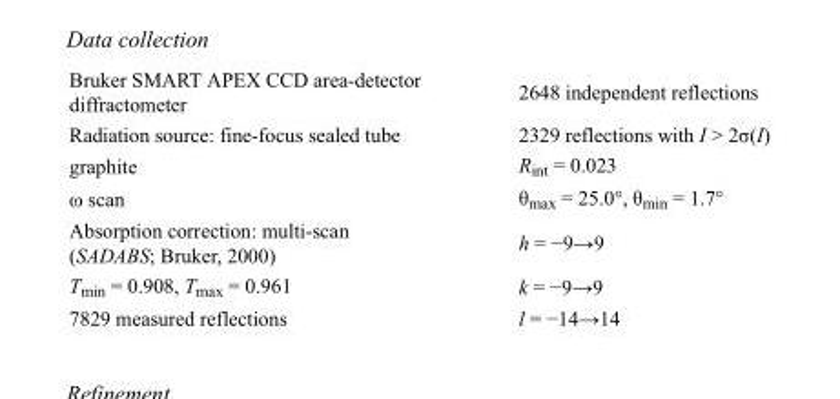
<table><tbody><tr><td>Bruker SMART APEX CCD area-detector diffractometer</td><td>2648 independent reflections</td></tr><tr><td>Radiation source: fine-focus sealed tube</td><td>2329 reflections with I &gt; 2σ(I)</td></tr><tr><td>graphite</td><td>R<sub>int</sub> = 0.023</td></tr><tr><td>ω scan</td><td>θ<sub>max</sub> = 25.0°, θ<sub>min</sub> = 1.7°</td></tr><tr><td>Absorption correction: multi-scan (SADABS; Bruker, 2000)</td><td>h = −9→9</td></tr><tr><td>T<sub>min</sub> = 0.908, T<sub>max</sub> = 0.961</td><td>k = −9→9</td></tr><tr><td>7829 measured reflections</td><td>l = −14→14</td></tr></tbody></table>